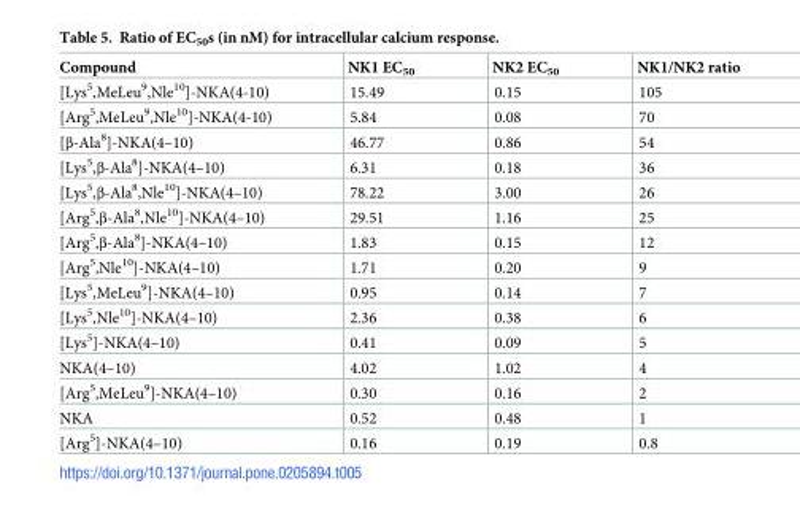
<table><thead><tr><td>Compound</td><td>NK1 EC<sub>50</sub></td><td>NK2 EC<sub>50</sub></td><td>NK1/NK2 ratio</td></tr></thead><tbody><tr><td>[Lys<sup>5</sup>,MeLeu<sup>9</sup>,Nle<sup>10</sup>]-NKA(4-10)</td><td>15.49</td><td>0.15</td><td>105</td></tr><tr><td>[Arg<sup>5</sup>,MeLeu<sup>9</sup>,Nle<sup>10</sup>]-NKA(4-10)</td><td>5.84</td><td>0.08</td><td>70</td></tr><tr><td>[β-Ala<sup>8</sup>]-NKA(4–10)</td><td>46.77</td><td>0.86</td><td>54</td></tr><tr><td>[Lys<sup>5</sup>,β-Ala<sup>8</sup>]-NKA(4–10)</td><td>6.31</td><td>0.18</td><td>36</td></tr><tr><td>[Lys<sup>5</sup>,β-Ala<sup>8</sup>,Nle<sup>10</sup>]-NKA(4–10)</td><td>78.22</td><td>3.00</td><td>26</td></tr><tr><td>[Arg<sup>5</sup>,β-Ala<sup>8</sup>,Nle<sup>10</sup>]-NKA(4–10)</td><td>29.51</td><td>1.16</td><td>25</td></tr><tr><td>[Arg<sup>5</sup>,β-Ala<sup>8</sup>]-NKA(4–10)</td><td>1.83</td><td>0.15</td><td>12</td></tr><tr><td>[Arg<sup>5</sup>,Nle<sup>10</sup>]-NKA(4–10)</td><td>1.71</td><td>0.20</td><td>9</td></tr><tr><td>[Lys<sup>5</sup>,MeLeu<sup>9</sup>]-NKA(4–10)</td><td>0.95</td><td>0.14</td><td>7</td></tr><tr><td>[Lys<sup>5</sup>,Nle<sup>10</sup>]-NKA(4–10)</td><td>2.36</td><td>0.38</td><td>6</td></tr><tr><td>[Lys<sup>5</sup>]-NKA(4–10)</td><td>0.41</td><td>0.09</td><td>5</td></tr><tr><td>NKA(4–10)</td><td>4.02</td><td>1.02</td><td>4</td></tr><tr><td>[Arg<sup>5</sup>,MeLeu<sup>9</sup>]-NKA(4–10)</td><td>0.30</td><td>0.16</td><td>2</td></tr><tr><td>NKA</td><td>0.52</td><td>0.48</td><td>1</td></tr><tr><td>[Arg<sup>5</sup>]-NKA(4–10)</td><td>0.16</td><td>0.19</td><td>0.8</td></tr></tbody></table>